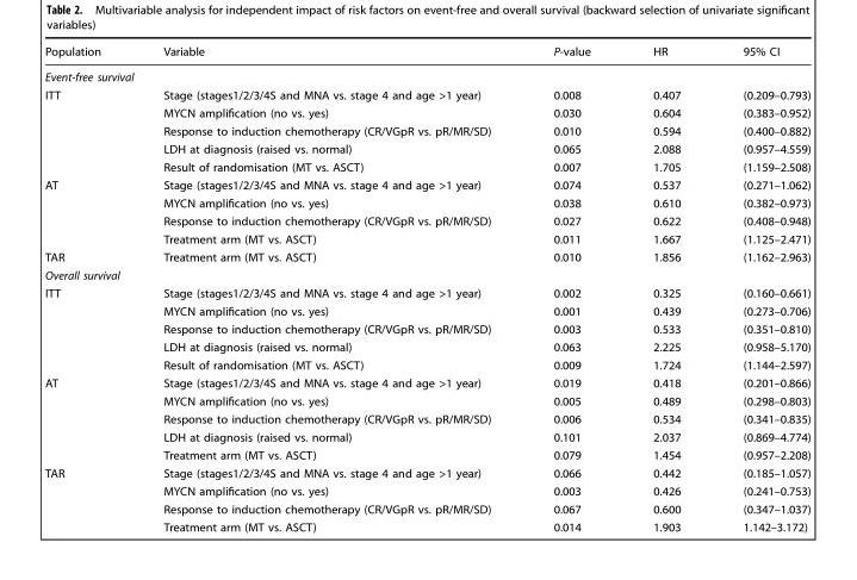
<table><thead><tr><td>Population</td><td>Variable</td><td>P-value</td><td>HR</td><td>95% CI</td></tr></thead><tbody><tr><td colspan="5">Event-free survival</td></tr><tr><td rowspan="5">ITT</td><td>Stage (stages1/2/3/4S and MNA vs. stage 4 and age &gt;1 year)</td><td>0.008</td><td>0.407</td><td>(0.209–0.793)</td></tr><tr><td>MYCN amplification (no vs. yes)</td><td>0.030</td><td>0.604</td><td>(0.383–0.952)</td></tr><tr><td>Response to induction chemotherapy (CR/VGpR vs. pR/MR/SD)</td><td>0.010</td><td>0.594</td><td>(0.400–0.882)</td></tr><tr><td>LDH at diagnosis (raised vs. normal)</td><td>0.065</td><td>2.088</td><td>(0.957–4.559)</td></tr><tr><td>Result of randomisation (MT vs. ASCT)</td><td>0.007</td><td>1.705</td><td>(1.159–2.508)</td></tr><tr><td rowspan="4">AT</td><td>Stage (stages1/2/3/4S and MNA vs. stage 4 and age &gt;1 year)</td><td>0.074</td><td>0.537</td><td>(0.271–1.062)</td></tr><tr><td>MYCN amplification (no vs. yes)</td><td>0.038</td><td>0.610</td><td>(0.382–0.973)</td></tr><tr><td>Response to induction chemotherapy (CR/VGpR vs. pR/MR/SD)</td><td>0.027</td><td>0.622</td><td>(0.408–0.948)</td></tr><tr><td>Treatment arm (MT vs. ASCT)</td><td>0.011</td><td>1.667</td><td>(1.125–2.471)</td></tr><tr><td>TAR</td><td>Treatment arm (MT vs. ASCT)</td><td>0.010</td><td>1.856</td><td>(1.162–2.963)</td></tr><tr><td colspan="5">Overall survival</td></tr><tr><td rowspan="5">ITT</td><td>Stage (stages1/2/3/4S and MNA vs. stage 4 and age &gt;1 year)</td><td>0.002</td><td>0.325</td><td>(0.160–0.661)</td></tr><tr><td>MYCN amplification (no vs. yes)</td><td>0.001</td><td>0.439</td><td>(0.273–0.706)</td></tr><tr><td>Response to induction chemotherapy (CR/VGpR vs. pR/MR/SD)</td><td>0.003</td><td>0.533</td><td>(0.351–0.810)</td></tr><tr><td>LDH at diagnosis (raised vs. normal)</td><td>0.063</td><td>2.225</td><td>(0.958–5.170)</td></tr><tr><td>Result of randomisation (MT vs. ASCT)</td><td>0.009</td><td>1.724</td><td>(1.144–2.597)</td></tr><tr><td rowspan="5">AT</td><td>Stage (stages1/2/3/4S and MNA vs. stage 4 and age &gt;1 year)</td><td>0.019</td><td>0.418</td><td>(0.201–0.866)</td></tr><tr><td>MYCN amplification (no vs. yes)</td><td>0.005</td><td>0.489</td><td>(0.298–0.803)</td></tr><tr><td>Response to induction chemotherapy (CR/VGpR vs. pR/MR/SD)</td><td>0.006</td><td>0.534</td><td>(0.341–0.835)</td></tr><tr><td>LDH at diagnosis (raised vs. normal)</td><td>0.101</td><td>2.037</td><td>(0.869–4.774)</td></tr><tr><td>Treatment arm (MT vs. ASCT)</td><td>0.079</td><td>1.454</td><td>(0.957–2.208)</td></tr><tr><td rowspan="4">TAR</td><td>Stage (stages1/2/3/4S and MNA vs. stage 4 and age &gt;1 year)</td><td>0.066</td><td>0.442</td><td>(0.185–1.057)</td></tr><tr><td>MYCN amplification (no vs. yes)</td><td>0.003</td><td>0.426</td><td>(0.241–0.753)</td></tr><tr><td>Response to induction chemotherapy (CR/VGpR vs. pR/MR/SD)</td><td>0.067</td><td>0.600</td><td>(0.347–1.037)</td></tr><tr><td>Treatment arm (MT vs. ASCT)</td><td>0.014</td><td>1.903</td><td>1.142–3.172)</td></tr></tbody></table>